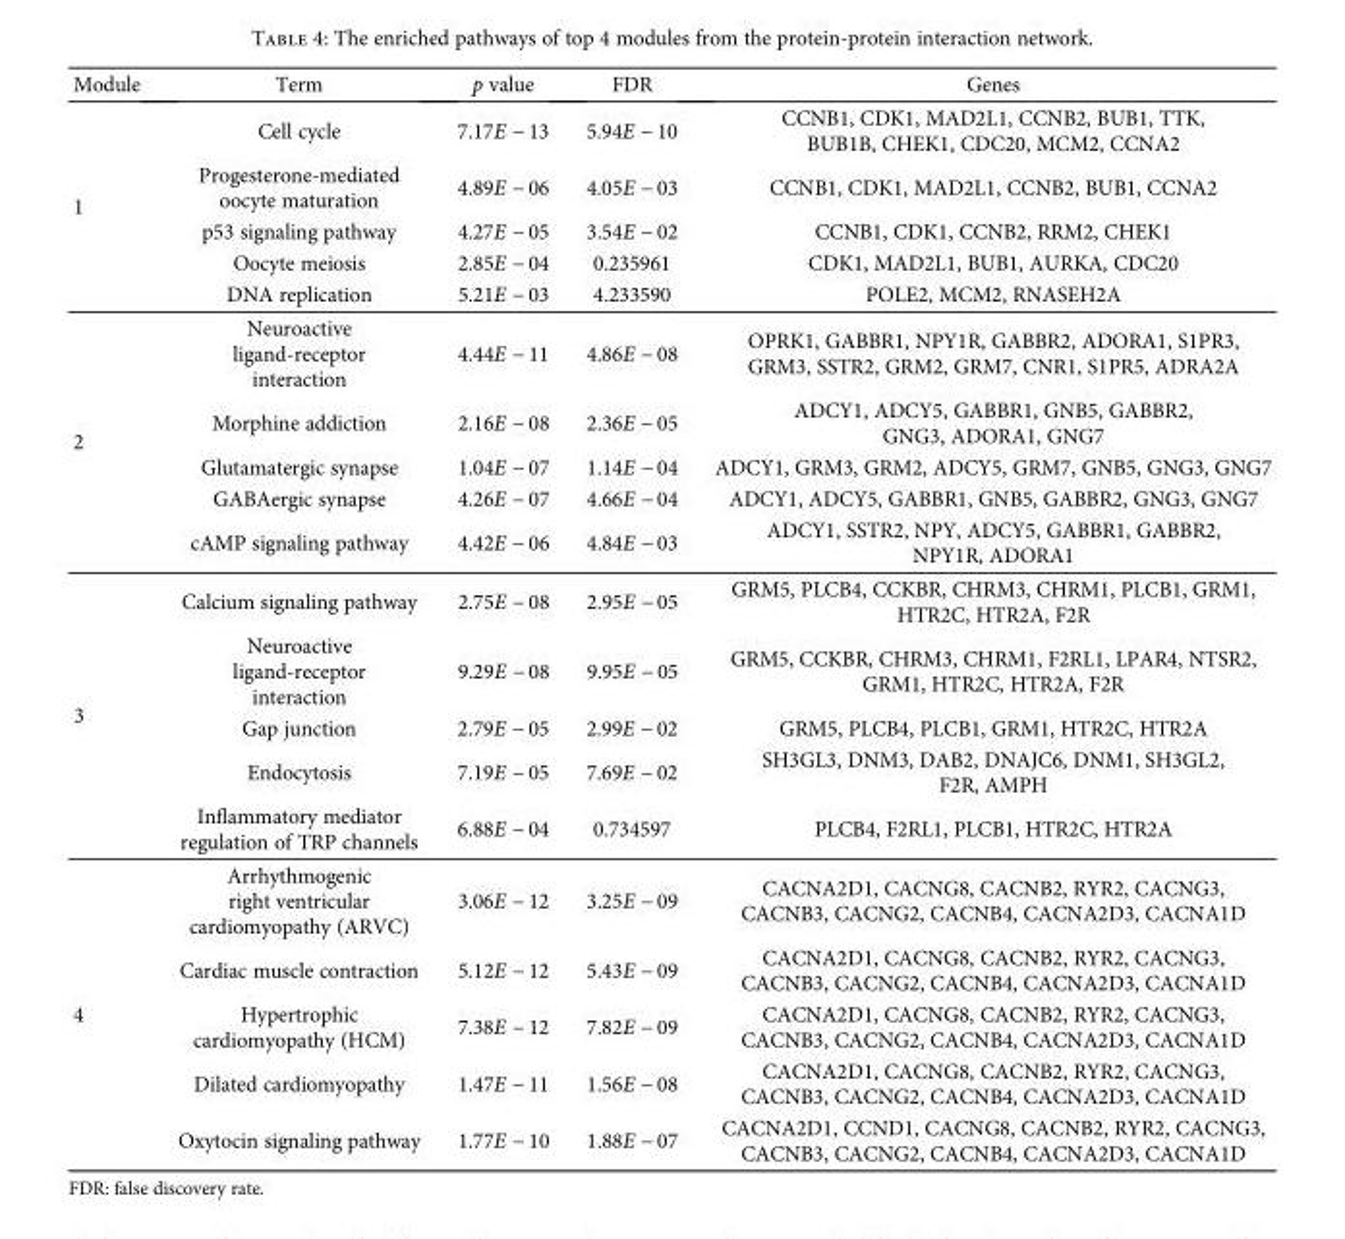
<table><thead><tr><td>Module</td><td>Term</td><td>p value</td><td>FDR</td><td>Genes</td></tr></thead><tbody><tr><td rowspan="5">1</td><td>Cell cycle</td><td>7.17E − 13</td><td>5.94E − 10</td><td>CCNB1, CDK1, MAD2L1, CCNB2, BUB1, TTK, BUB1B, CHEK1, CDC20, MCM2, CCNA2</td></tr><tr><td>Progesterone-mediated oocyte maturation</td><td>4.89E − 06</td><td>4.05E − 03</td><td>CCNB1, CDK1, MAD2L1, CCNB2, BUB1, CCNA2</td></tr><tr><td>p53 signaling pathway</td><td>4.27E − 05</td><td>3.54E − 02</td><td>CCNB1, CDK1, CCNB2, RRM2, CHEK1</td></tr><tr><td>Oocyte meiosis</td><td>2.85E − 04</td><td>0.235961</td><td>CDK1, MAD2L1, BUB1, AURKA, CDC20</td></tr><tr><td>DNA replication</td><td>5.21E − 03</td><td>4.233590</td><td>POLE2, MCM2, RNASEH2A</td></tr><tr><td rowspan="5">2</td><td>Neuroactive ligand-receptor interaction</td><td>4.44E − 11</td><td>4.86E − 08</td><td>OPRK1, GABBR1, NPY1R, GABBR2, ADORA1, S1PR3, GRM3, SSTR2, GRM2, GRM7, CNR1, S1PR5, ADRA2A</td></tr><tr><td>Morphine addiction</td><td>2.16E − 08</td><td>2.36E − 05</td><td>ADCY1, ADCY5, GABBR1, GNB5, GABBR2, GNG3, ADORA1, GNG7</td></tr><tr><td>Glutamatergic synapse</td><td>1.04E − 07</td><td>1.14E − 04</td><td>ADCY1, GRM3, GRM2, ADCY5, GRM7, GNB5, GNG3, GNG7</td></tr><tr><td>GABAergic synapse</td><td>4.26E − 07</td><td>4.66E − 04</td><td>ADCY1, ADCY5, GABBR1, GNB5, GABBR2, GNG3, GNG7</td></tr><tr><td>cAMP signaling pathway</td><td>4.42E − 06</td><td>4.84E − 03</td><td>ADCY1, SSTR2, NPY, ADCY5, GABBR1, GABBR2, NPY1R, ADORA1</td></tr><tr><td rowspan="5">3</td><td>Calcium signaling pathway</td><td>2.75E − 08</td><td>2.95E − 05</td><td>GRM5, PLCB4, CCKBR, CHRM3, CHRM1, PLCB1, GRM1, HTR2C, HTR2A, F2R</td></tr><tr><td>Neuroactive ligand-receptor interaction</td><td>9.29E − 08</td><td>9.95E − 05</td><td>GRM5, CCKBR, CHRM3, CHRM1, F2RL1, LPAR4, NTSR2, GRM1, HTR2C, HTR2A, F2R</td></tr><tr><td>Gap junction</td><td>2.79E − 05</td><td>2.99E − 02</td><td>GRM5, PLCB4, PLCB1, GRM1, HTR2C, HTR2A</td></tr><tr><td>Endocytosis</td><td>7.19E − 05</td><td>7.69E − 02</td><td>SH3GL3, DNM3, DAB2, DNAJC6, DNM1, SH3GL2, F2R, AMPH</td></tr><tr><td>Inflammatory mediator regulation of TRP channels</td><td>6.88E − 04</td><td>0.734597</td><td>PLCB4, F2RL1, PLCB1, HTR2C, HTR2A</td></tr><tr><td rowspan="5">4</td><td>Arrhythmogenic right ventricular cardiomyopathy (ARVC)</td><td>3.06E − 12</td><td>3.25E − 09</td><td>CACNA2D1, CACNG8, CACNB2, RYR2, CACNG3, CACNB3, CACNG2, CACNB4, CACNA2D3, CACNA1D</td></tr><tr><td>Cardiac muscle contraction</td><td>5.12E − 12</td><td>5.43E − 09</td><td>CACNA2D1, CACNG8, CACNB2, RYR2, CACNG3, CACNB3, CACNG2, CACNB4, CACNA2D3, CACNA1D</td></tr><tr><td>Hypertrophic cardiomyopathy (HCM)</td><td>7.38E − 12</td><td>7.82E − 09</td><td>CACNA2D1, CACNG8, CACNB2, RYR2, CACNG3, CACNB3, CACNG2, CACNB4, CACNA2D3, CACNA1D</td></tr><tr><td>Dilated cardiomyopathy</td><td>1.47E − 11</td><td>1.56E − 08</td><td>CACNA2D1, CACNG8, CACNB2, RYR2, CACNG3, CACNB3, CACNG2, CACNB4, CACNA2D3, CACNA1D</td></tr><tr><td>Oxytocin signaling pathway</td><td>1.77E − 10</td><td>1.88E − 07</td><td>CACNA2D1, CCND1, CACNG8, CACNB2, RYR2, CACNG3, CACNB3, CACNG2, CACNB4, CACNA2D3, CACNA1D</td></tr></tbody></table>